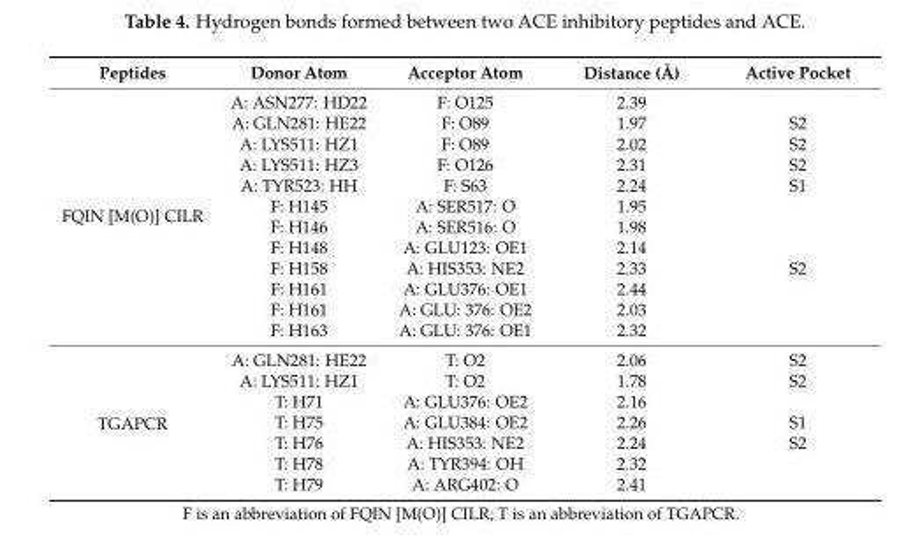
<table><thead><tr><td>Peptides</td><td>Donor Atom</td><td>Acceptor Atom</td><td>Distance (Å)</td><td>Active Pocket</td></tr></thead><tbody><tr><td rowspan="12">FQIN [M(O)] CILR</td><td>A: ASN277: HD22</td><td>F: O125</td><td>2.39</td><td></td></tr><tr><td>A: GLN281: HE22</td><td>F: O89</td><td>1.97</td><td>S2</td></tr><tr><td>A: LYS511: HZ1</td><td>F: O89</td><td>2.02</td><td>S2</td></tr><tr><td>A: LYS511: HZ3</td><td>F: O126</td><td>2.31</td><td>S2</td></tr><tr><td>A: TYR523: HH</td><td>F: S63</td><td>2.24</td><td>S1</td></tr><tr><td>F: H145</td><td>A: SER517: O</td><td>1.95</td><td></td></tr><tr><td>F: H146</td><td>A: SER516: O</td><td>1.98</td><td></td></tr><tr><td>F: H148</td><td>A: GLU123: OE1</td><td>2.14</td><td></td></tr><tr><td>F: H158</td><td>A: HIS353: NE2</td><td>2.33</td><td>S2</td></tr><tr><td>F: H161</td><td>A: GLU376: OE1</td><td>2.44</td><td></td></tr><tr><td>F: H161</td><td>A: GLU: 376: OE2</td><td>2.03</td><td></td></tr><tr><td>F: H163</td><td>A: GLU: 376: OE1</td><td>2.32</td><td></td></tr><tr><td rowspan="7">TGAPCR</td><td>A: GLN281: HE22</td><td>T: O2</td><td>2.06</td><td>S2</td></tr><tr><td>A: LYS511: HZ1</td><td>T: O2</td><td>1.78</td><td>S2</td></tr><tr><td>T: H71</td><td>A: GLU376: OE2</td><td>2.16</td><td></td></tr><tr><td>T: H75</td><td>A: GLU384: OE2</td><td>2.26</td><td>S1</td></tr><tr><td>T: H76</td><td>A: HIS353: NE2</td><td>2.24</td><td>S2</td></tr><tr><td>T: H78</td><td>A: TYR394: OH</td><td>2.32</td><td></td></tr><tr><td>T: H79</td><td>A: ARG402: O</td><td>2.41</td><td></td></tr></tbody></table>